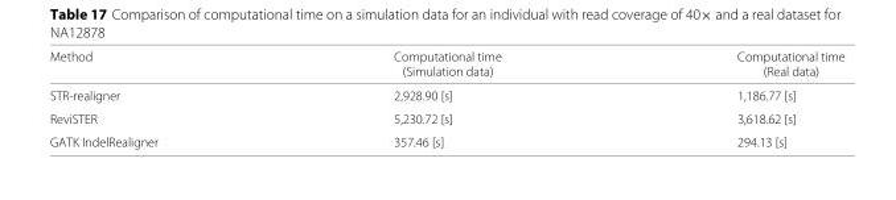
<table><thead><tr><td rowspan="2">Method</td><td rowspan="2">Computational time (Simulation data)</td><td rowspan="2">Computational time (Real data)</td></tr><tr></tr></thead><tbody><tr><td>STR-realigner</td><td>2,928.90 [s]</td><td>1,186.77 [s]</td></tr><tr><td>ReviSTER</td><td>5,230.72 [s]</td><td>3,618.62 [s]</td></tr><tr><td>GATK IndelRealigner</td><td>357.46 [s]</td><td>294.13 [s]</td></tr></tbody></table>